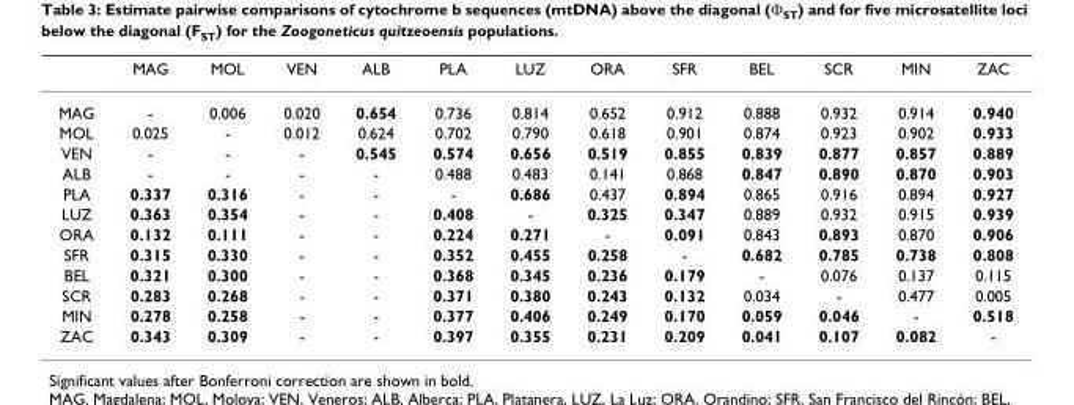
<table><thead><tr><td></td><td>MAG</td><td>MOL</td><td>VEN</td><td>ALB</td><td>PLA</td><td>LUZ</td><td>ORA</td><td>SFR</td><td>BEL</td><td>SCR</td><td>MIN</td><td>ZAC</td></tr></thead><tbody><tr><td>MAG</td><td>-</td><td>0.006</td><td>0.020</td><td>0.654</td><td>0.736</td><td>0.814</td><td>0.652</td><td>0.912</td><td>0.888</td><td>0.932</td><td>0.914</td><td>0.940</td></tr><tr><td>MOL</td><td>0.025</td><td>-</td><td>0.012</td><td>0.624</td><td>0.702</td><td>0.790</td><td>0.618</td><td>0.901</td><td>0.874</td><td>0.923</td><td>0.902</td><td>0.933</td></tr><tr><td>VEN</td><td>-</td><td>-</td><td>-</td><td>0.545</td><td>0.574</td><td>0.656</td><td>0.519</td><td>0.855</td><td>0.839</td><td>0.877</td><td>0.857</td><td>0.889</td></tr><tr><td>ALB</td><td>-</td><td>-</td><td>-</td><td>-</td><td>0.488</td><td>0.483</td><td>0.141</td><td>0.868</td><td>0.847</td><td>0.890</td><td>0.870</td><td>0.903</td></tr><tr><td>PLA</td><td>0.337</td><td>0.316</td><td>-</td><td>-</td><td>-</td><td>0.686</td><td>0.437</td><td>0.894</td><td>0.865</td><td>0.916</td><td>0.894</td><td>0.927</td></tr><tr><td>LUZ</td><td>0.363</td><td>0.354</td><td>-</td><td>-</td><td>0.408</td><td>-</td><td>0.325</td><td>0.347</td><td>0.889</td><td>0.932</td><td>0.915</td><td>0.939</td></tr><tr><td>ORA</td><td>0.132</td><td>0.111</td><td>-</td><td>-</td><td>0.224</td><td>0.271</td><td>-</td><td>0.091</td><td>0.843</td><td>0.893</td><td>0.870</td><td>0.906</td></tr><tr><td>SFR</td><td>0.315</td><td>0.330</td><td>-</td><td>-</td><td>0.352</td><td>0.455</td><td>0.258</td><td>-</td><td>0.682</td><td>0.785</td><td>0.738</td><td>0.808</td></tr><tr><td>BEL</td><td>0.321</td><td>0.300</td><td>-</td><td>-</td><td>0.368</td><td>0.345</td><td>0.236</td><td>0.179</td><td>-</td><td>0.076</td><td>0.137</td><td>0.115</td></tr><tr><td>SCR</td><td>0.283</td><td>0.268</td><td>-</td><td>-</td><td>0.371</td><td>0.380</td><td>0.243</td><td>0.132</td><td>0.034</td><td>-</td><td>0.477</td><td>0.005</td></tr><tr><td>MIN</td><td>0.278</td><td>0.258</td><td>-</td><td>-</td><td>0.377</td><td>0.406</td><td>0.249</td><td>0.170</td><td>0.059</td><td>0.046</td><td>-</td><td>0.518</td></tr><tr><td>ZAC</td><td>0.343</td><td>0.309</td><td>-</td><td>-</td><td>0.397</td><td>0.355</td><td>0.231</td><td>0.209</td><td>0.041</td><td>0.107</td><td>0.082</td><td>-</td></tr></tbody></table>